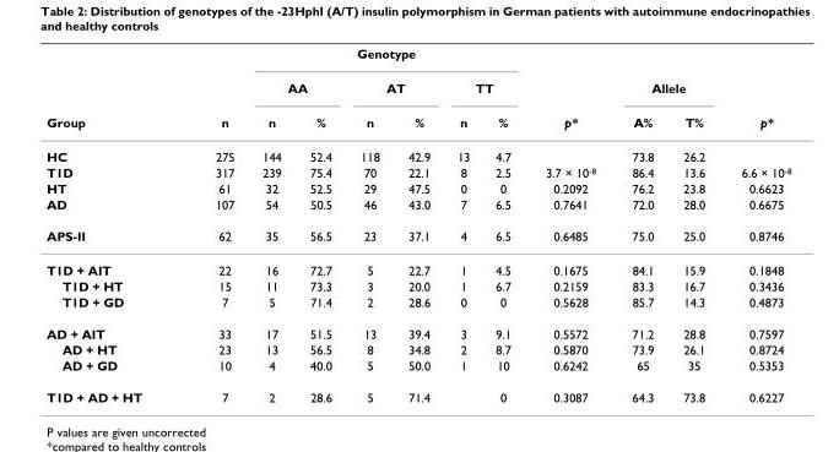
<table><thead><tr><td rowspan="3">Group</td><td rowspan="3">n</td><td colspan="6">Genotype</td><td rowspan="3">p*</td><td></td><td></td><td rowspan="3">p*</td></tr><tr><td colspan="2">AA</td><td colspan="2">AT</td><td colspan="2">TT</td><td colspan="2">Allele</td></tr><tr><td>n</td><td>%</td><td>n</td><td>%</td><td>n</td><td>%</td><td>A%</td><td>T%</td></tr></thead><tbody><tr><td>HC</td><td>275</td><td>144</td><td>52.4</td><td>118</td><td>42.9</td><td>13</td><td>4.7</td><td></td><td>73.8</td><td>26.2</td><td></td></tr><tr><td>T1D</td><td>317</td><td>239</td><td>75.4</td><td>70</td><td>22.1</td><td>8</td><td>2.5</td><td>3.7 × 10<sup>-8</sup></td><td>86.4</td><td>13.6</td><td>6.6 × 10<sup>-8</sup></td></tr><tr><td>HT</td><td>61</td><td>32</td><td>52.5</td><td>29</td><td>47.5</td><td>0</td><td>0</td><td>0.2092</td><td>76.2</td><td>23.8</td><td>0.6623</td></tr><tr><td>AD</td><td>107</td><td>54</td><td>50.5</td><td>46</td><td>43.0</td><td>7</td><td>6.5</td><td>0.7641</td><td>72.0</td><td>28.0</td><td>0.6675</td></tr><tr><td>APS-II</td><td>62</td><td>35</td><td>56.5</td><td>23</td><td>37.1</td><td>4</td><td>6.5</td><td>0.6485</td><td>75.0</td><td>25.0</td><td>0.8746</td></tr><tr><td>T1D + AIT</td><td>22</td><td>16</td><td>72.7</td><td>5</td><td>22.7</td><td>1</td><td>4.5</td><td>0.1675</td><td>84.1</td><td>15.9</td><td>0.1848</td></tr><tr><td>T1D + HT</td><td>15</td><td>11</td><td>73.3</td><td>3</td><td>20.0</td><td>1</td><td>6.7</td><td>0.2159</td><td>83.3</td><td>16.7</td><td>0.3436</td></tr><tr><td>T1D + GD</td><td>7</td><td>5</td><td>71.4</td><td>2</td><td>28.6</td><td>0</td><td>0</td><td>0.5628</td><td>85.7</td><td>14.3</td><td>0.4873</td></tr><tr><td>AD + AIT</td><td>33</td><td>17</td><td>51.5</td><td>13</td><td>39.4</td><td>3</td><td>9.1</td><td>0.5572</td><td>71.2</td><td>28.8</td><td>0.7597</td></tr><tr><td>AD + HT</td><td>23</td><td>13</td><td>56.5</td><td>8</td><td>34.8</td><td>2</td><td>8.7</td><td>0.5870</td><td>73.9</td><td>26.1</td><td>0.8724</td></tr><tr><td>AD + GD</td><td>10</td><td>4</td><td>40.0</td><td>5</td><td>50.0</td><td>1</td><td>10</td><td>0.6242</td><td>65</td><td>35</td><td>0.5353</td></tr><tr><td>T1D + AD + HT</td><td>7</td><td>2</td><td>28.6</td><td>5</td><td>71.4</td><td></td><td>0</td><td>0.3087</td><td>64.3</td><td>73.8</td><td>0.6227</td></tr></tbody></table>